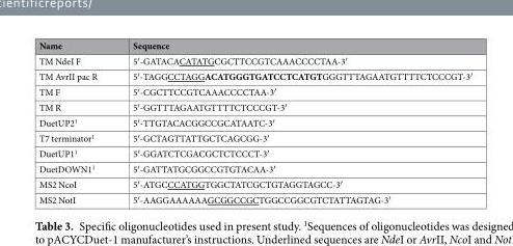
<table><thead><tr><td>Name</td><td>Sequence</td></tr></thead><tbody><tr><td>TM NdeI F</td><td>5′-GATACACATATGCGCTTCCGTCAAACCCCTAA-3′</td></tr><tr><td>TM AvrII pac R</td><td>5′-TAGGCCTAGGACATGGGTGATCCTCATGTGGGTTTAGAATGTTTTCTCCCGT-3′</td></tr><tr><td>TM F</td><td>5′-CGCTTCCGTCAAACCCCTAA-3′</td></tr><tr><td>TM R</td><td>5′-GGTTTAGAATGTTTTCTCCCGT-3′</td></tr><tr><td>DuetUP2<sup>1</sup></td><td>5′-TTGTACACGGCCGCATAATC-3′</td></tr><tr><td>T7 terminator<sup>1</sup></td><td>5′-GCTAGTTATTGCTCAGCGG-3′</td></tr><tr><td>DuetUP1<sup>1</sup></td><td>5′-GGATCTCGACGCTCTCCCT-3′</td></tr><tr><td>DuetDOWN1<sup>1</sup></td><td>5′-GATTATGCGGCCGTGTACAA-3′</td></tr><tr><td>MS2 NcoI</td><td>5′-ATGCCCATGGTGGCTATCGCTGTAGGTAGCC-3′</td></tr><tr><td>MS2 NotI</td><td>5′-AAGGAAAAAAGCGGCCGCTGGCCGGCGTCTATTAGTAG-3′</td></tr></tbody></table>